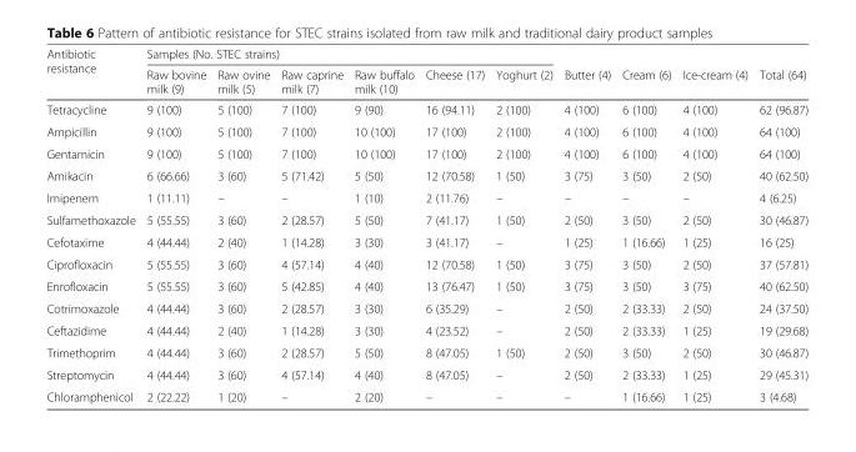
<table><thead><tr><td rowspan="2">Antibiotic resistance</td><td colspan="6">Samples (No. STEC strains)</td><td rowspan="2">Butter (4)</td><td rowspan="2">Cream (6)</td><td rowspan="2">Ice-cream (4)</td><td rowspan="2">Total (64)</td></tr><tr><td>Raw bovine milk (9)</td><td>Raw ovine milk (5)</td><td>Raw caprine milk (7)</td><td>Raw buffalo milk (10)</td><td>Cheese (17)</td><td>Yoghurt (2)</td></tr></thead><tbody><tr><td>Tetracycline</td><td>9 (100)</td><td>5 (100)</td><td>7 (100)</td><td>9 (90)</td><td>16 (94.11)</td><td>2 (100)</td><td>4 (100)</td><td>6 (100)</td><td>4 (100)</td><td>62 (96.87)</td></tr><tr><td>Ampicillin</td><td>9 (100)</td><td>5 (100)</td><td>7 (100)</td><td>10 (100)</td><td>17 (100)</td><td>2 (100)</td><td>4 (100)</td><td>6 (100)</td><td>4 (100)</td><td>64 (100)</td></tr><tr><td>Gentamicin</td><td>9 (100)</td><td>5 (100)</td><td>7 (100)</td><td>10 (100)</td><td>17 (100)</td><td>2 (100)</td><td>4 (100)</td><td>6 (100)</td><td>4 (100)</td><td>64 (100)</td></tr><tr><td>Amikacin</td><td>6 (66.66)</td><td>3 (60)</td><td>5 (71.42)</td><td>5 (50)</td><td>12 (70.58)</td><td>1 (50)</td><td>3 (75)</td><td>3 (50)</td><td>2 (50)</td><td>40 (62.50)</td></tr><tr><td>Imipenem</td><td>1 (11.11)</td><td>–</td><td>–</td><td>1 (10)</td><td>2 (11.76)</td><td>–</td><td>–</td><td>–</td><td>–</td><td>4 (6.25)</td></tr><tr><td>Sulfamethoxazole</td><td>5 (55.55)</td><td>3 (60)</td><td>2 (28.57)</td><td>5 (50)</td><td>7 (41.17)</td><td>1 (50)</td><td>2 (50)</td><td>3 (50)</td><td>2 (50)</td><td>30 (46.87)</td></tr><tr><td>Cefotaxime</td><td>4 (44.44)</td><td>2 (40)</td><td>1 (14.28)</td><td>3 (30)</td><td>3 (41.17)</td><td>–</td><td>1 (25)</td><td>1 (16.66)</td><td>1 (25)</td><td>16 (25)</td></tr><tr><td>Ciprofloxacin</td><td>5 (55.55)</td><td>3 (60)</td><td>4 (57.14)</td><td>4 (40)</td><td>12 (70.58)</td><td>1 (50)</td><td>3 (75)</td><td>3 (50)</td><td>2 (50)</td><td>37 (57.81)</td></tr><tr><td>Enrofloxacin</td><td>5 (55.55)</td><td>3 (60)</td><td>5 (42.85)</td><td>4 (40)</td><td>13 (76.47)</td><td>1 (50)</td><td>3 (75)</td><td>3 (50)</td><td>3 (75)</td><td>40 (62.50)</td></tr><tr><td>Cotrimoxazole</td><td>4 (44.44)</td><td>3 (60)</td><td>2 (28.57)</td><td>3 (30)</td><td>6 (35.29)</td><td>–</td><td>2 (50)</td><td>2 (33.33)</td><td>2 (50)</td><td>24 (37.50)</td></tr><tr><td>Ceftazidime</td><td>4 (44.44)</td><td>2 (40)</td><td>1 (14.28)</td><td>3 (30)</td><td>4 (23.52)</td><td>–</td><td>2 (50)</td><td>2 (33.33)</td><td>1 (25)</td><td>19 (29.68)</td></tr><tr><td>Trimethoprim</td><td>4 (44.44)</td><td>3 (60)</td><td>2 (28.57)</td><td>5 (50)</td><td>8 (47.05)</td><td>1 (50)</td><td>2 (50)</td><td>3 (50)</td><td>2 (50)</td><td>30 (46.87)</td></tr><tr><td>Streptomycin</td><td>4 (44.44)</td><td>3 (60)</td><td>4 (57.14)</td><td>4 (40)</td><td>8 (47.05)</td><td>–</td><td>2 (50)</td><td>2 (33.33)</td><td>1 (25)</td><td>29 (45.31)</td></tr><tr><td>Chloramphenicol</td><td>2 (22.22)</td><td>1 (20)</td><td>–</td><td>2 (20)</td><td>–</td><td>–</td><td>–</td><td>1 (16.66)</td><td>1 (25)</td><td>3 (4.68)</td></tr></tbody></table>